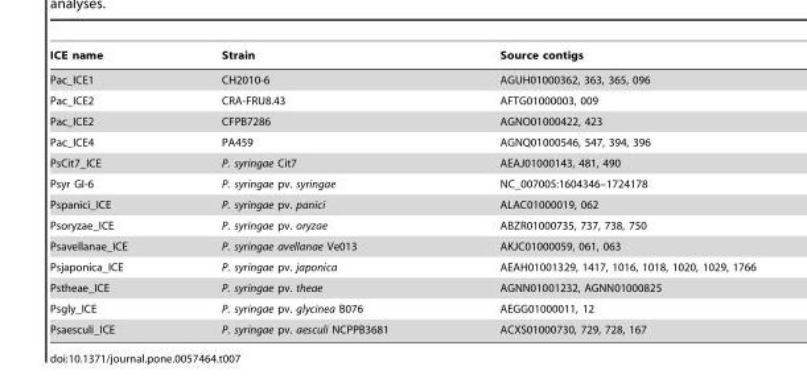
<table><thead><tr><td>ICE name</td><td>Strain</td><td>Source contigs</td></tr></thead><tbody><tr><td>Pac_ICE1</td><td>CH2010-6</td><td>AGUH01000362, 363, 365, 096</td></tr><tr><td>Pac_ICE2</td><td>CRA-FRU8.43</td><td>AFTG01000003, 009</td></tr><tr><td>Pac_ICE2</td><td>CFPB7286</td><td>AGNO01000422, 423</td></tr><tr><td>Pac_ICE4</td><td>PA459</td><td>AGNQ01000546, 547, 394, 396</td></tr><tr><td>PsCit7_ICE</td><td>P. syringae Cit7</td><td>AEAJ01000143, 481, 490</td></tr><tr><td>Psyr GI-6</td><td>P. syringae pv. syringae</td><td>NC_007005:1604346–1724178</td></tr><tr><td>Pspanici_ICE</td><td>P. syringae pv. panici</td><td>ALAC01000019, 062</td></tr><tr><td>Psoryzae_ICE</td><td>P. syringae pv. oryzae</td><td>ABZR01000735, 737, 738, 750</td></tr><tr><td>Psavellanae_ICE</td><td>P. syringae avellanae Ve013</td><td>AKJC01000059, 061, 063</td></tr><tr><td>Psjaponica_ICE</td><td>P. syringae pv. japonica</td><td>AEAH01001329, 1417, 1016, 1018, 1020, 1029, 1766</td></tr><tr><td>Pstheae_ICE</td><td>P. syringae pv. theae</td><td>AGNN01001232, AGNN01000825</td></tr><tr><td>Psgly_ICE</td><td>P. syringae pv. glycinea B076</td><td>AEGG01000011, 12</td></tr><tr><td>Psaesculi_ICE</td><td>P. syringae pv. aesculi NCPPB3681</td><td>ACXS01000730, 729, 728, 167</td></tr></tbody></table>